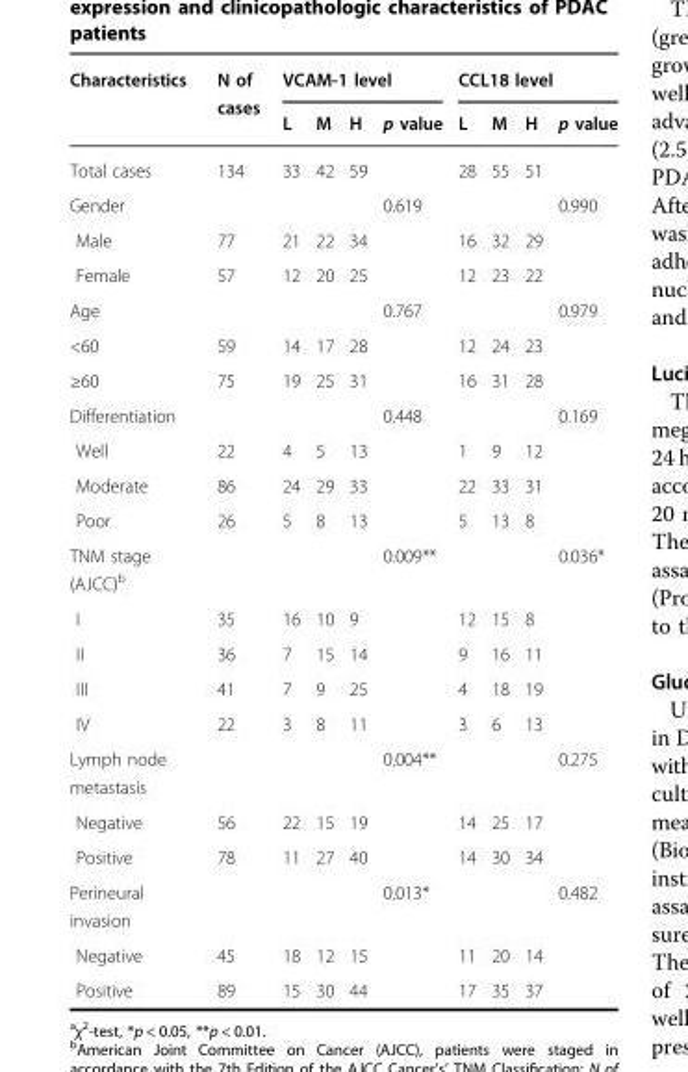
<table><thead><tr><td rowspan="2">Characteristics</td><td rowspan="2">N of cases</td><td colspan="4">VCAM-1 level</td><td colspan="4">CCL18 level</td></tr><tr><td>L</td><td>M</td><td>H</td><td>p value</td><td>L</td><td>M</td><td>H</td><td>p value</td></tr></thead><tbody><tr><td>Total cases</td><td>134</td><td>33</td><td>42</td><td>59</td><td></td><td>28</td><td>55</td><td>51</td><td></td></tr><tr><td>Gender</td><td></td><td></td><td></td><td></td><td>0.619</td><td></td><td></td><td></td><td>0.990</td></tr><tr><td>Male</td><td>77</td><td>21</td><td>22</td><td>34</td><td></td><td>16</td><td>32</td><td>29</td><td></td></tr><tr><td>Female</td><td>57</td><td>12</td><td>20</td><td>25</td><td></td><td>12</td><td>23</td><td>22</td><td></td></tr><tr><td>Age</td><td></td><td></td><td></td><td></td><td>0.767</td><td></td><td></td><td></td><td>0.979</td></tr><tr><td>&lt;60</td><td>59</td><td>14</td><td>17</td><td>28</td><td></td><td>12</td><td>24</td><td>23</td><td></td></tr><tr><td>≥60</td><td>75</td><td>19</td><td>25</td><td>31</td><td></td><td>16</td><td>31</td><td>28</td><td></td></tr><tr><td>Differentiation</td><td></td><td></td><td></td><td></td><td>0.448</td><td></td><td></td><td></td><td>0.169</td></tr><tr><td>Well</td><td>22</td><td>4</td><td>5</td><td>13</td><td></td><td>1</td><td>9</td><td>12</td><td></td></tr><tr><td>Moderate</td><td>86</td><td>24</td><td>29</td><td>33</td><td></td><td>22</td><td>33</td><td>31</td><td></td></tr><tr><td>Poor</td><td>26</td><td>5</td><td>8</td><td>13</td><td></td><td>5</td><td>13</td><td>8</td><td></td></tr><tr><td>TNM stage (AJCC)<sup>b</sup></td><td></td><td></td><td></td><td></td><td>0.009**</td><td></td><td></td><td></td><td>0.036*</td></tr><tr><td>I</td><td>35</td><td>16</td><td>10</td><td>9</td><td></td><td>12</td><td>15</td><td>8</td><td></td></tr><tr><td>II</td><td>36</td><td>7</td><td>15</td><td>14</td><td></td><td>9</td><td>16</td><td>11</td><td></td></tr><tr><td>III</td><td>41</td><td>7</td><td>9</td><td>25</td><td></td><td>4</td><td>18</td><td>19</td><td></td></tr><tr><td>IV</td><td>22</td><td>3</td><td>8</td><td>11</td><td></td><td>3</td><td>6</td><td>13</td><td></td></tr><tr><td>Lymph node metastasis</td><td></td><td></td><td></td><td></td><td>0.004**</td><td></td><td></td><td></td><td>0.275</td></tr><tr><td>Negative</td><td>56</td><td>22</td><td>15</td><td>19</td><td></td><td>14</td><td>25</td><td>17</td><td></td></tr><tr><td>Positive</td><td>78</td><td>11</td><td>27</td><td>40</td><td></td><td>14</td><td>30</td><td>34</td><td></td></tr><tr><td>Perineural invasion</td><td></td><td></td><td></td><td></td><td>0.013*</td><td></td><td></td><td></td><td>0.482</td></tr><tr><td>Negative</td><td>45</td><td>18</td><td>12</td><td>15</td><td></td><td>11</td><td>20</td><td>14</td><td></td></tr><tr><td>Positive</td><td>89</td><td>15</td><td>30</td><td>44</td><td></td><td>17</td><td>35</td><td>37</td><td></td></tr></tbody></table>